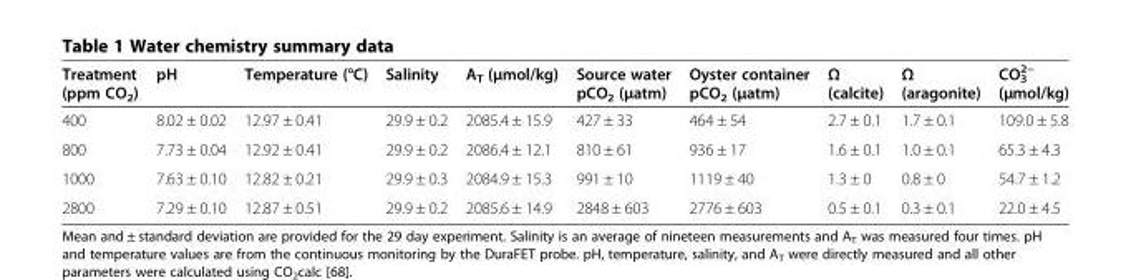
<table><thead><tr><td>Treatment (ppm CO<sub>2</sub>)</td><td>pH</td><td>Temperature (°C)</td><td>Salinity</td><td>A<sub>T</sub> (μmol/kg)</td><td>Source water pCO<sub>2</sub> (μatm)</td><td>Oyster container pCO<sub>2</sub> (μatm)</td><td>Ω (calcite)</td><td>Ω (aragonite)</td><td>CO<sub>3</sub> <sup>2−</sup> (μmol/kg)</td></tr></thead><tbody><tr><td>400</td><td>8.02 ± 0.02</td><td>12.97 ± 0.41</td><td>29.9 ± 0.2</td><td>2085.4 ± 15.9</td><td>427 ± 33</td><td>464 ± 54</td><td>2.7 ± 0.1</td><td>1.7 ± 0.1</td><td>109.0 ± 5.8</td></tr><tr><td>800</td><td>7.73 ± 0.04</td><td>12.92 ± 0.41</td><td>29.9 ± 0.2</td><td>2086.4 ± 12.1</td><td>810 ± 61</td><td>936 ± 17</td><td>1.6 ± 0.1</td><td>1.0 ± 0.1</td><td>65.3 ± 4.3</td></tr><tr><td>1000</td><td>7.63 ± 0.10</td><td>12.82 ± 0.21</td><td>29.9 ± 0.3</td><td>2084.9 ± 15.3</td><td>991 ± 10</td><td>1119 ± 40</td><td>1.3 ± 0</td><td>0.8 ± 0</td><td>54.7 ± 1.2</td></tr><tr><td>2800</td><td>7.29 ± 0.10</td><td>12.87 ± 0.51</td><td>29.9 ± 0.2</td><td>2085.6 ± 14.9</td><td>2848 ± 603</td><td>2776 ± 603</td><td>0.5 ± 0.1</td><td>0.3 ± 0.1</td><td>22.0 ± 4.5</td></tr></tbody></table>